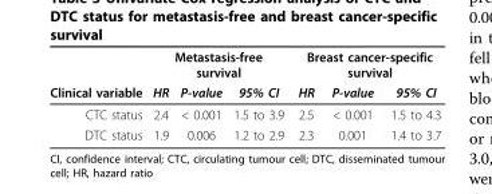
<table><thead><tr><td rowspan="2">Clinical variable</td><td colspan="3">Metastasis-free survival</td><td colspan="3">Breast cancer-specific survival</td></tr><tr><td>HR</td><td>P-value</td><td>95% CI</td><td>HR</td><td>P-value</td><td>95% CI</td></tr></thead><tbody><tr><td>CTC status</td><td>2.4</td><td>&lt; 0.001</td><td>1.5 to 3.9</td><td>2.5</td><td>&lt; 0.001</td><td>1.5 to 4.3</td></tr><tr><td>DTC status</td><td>1.9</td><td>0.006</td><td>1.2 to 2.9</td><td>2.3</td><td>0.001</td><td>1.4 to 3.7</td></tr></tbody></table>